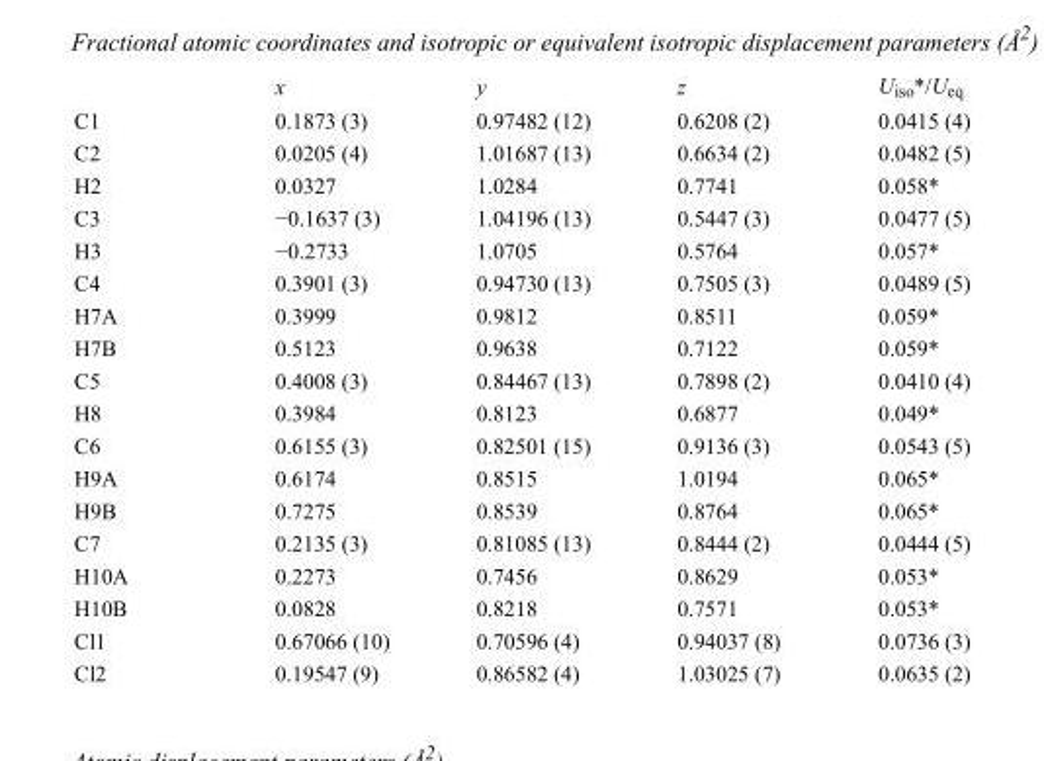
<table><thead><tr><td></td><td>x</td><td>y</td><td>z</td><td>U<sub>iso</sub>*/U<sub>eq</sub></td></tr></thead><tbody><tr><td>C1</td><td>0.1873 (3)</td><td>0.97482 (12)</td><td>0.6208 (2)</td><td>0.0415 (4)</td></tr><tr><td>C2</td><td>0.0205 (4)</td><td>1.01687 (13)</td><td>0.6634 (2)</td><td>0.0482 (5)</td></tr><tr><td>H2</td><td>0.0327</td><td>1.0284</td><td>0.7741</td><td>0.058*</td></tr><tr><td>C3</td><td>−0.1637 (3)</td><td>1.04196 (13)</td><td>0.5447 (3)</td><td>0.0477 (5)</td></tr><tr><td>H3</td><td>−0.2733</td><td>1.0705</td><td>0.5764</td><td>0.057*</td></tr><tr><td>C4</td><td>0.3901 (3)</td><td>0.94730 (13)</td><td>0.7505 (3)</td><td>0.0489 (5)</td></tr><tr><td>H7A</td><td>0.3999</td><td>0.9812</td><td>0.8511</td><td>0.059*</td></tr><tr><td>H7B</td><td>0.5123</td><td>0.9638</td><td>0.7122</td><td>0.059*</td></tr><tr><td>C5</td><td>0.4008 (3)</td><td>0.84467 (13)</td><td>0.7898 (2)</td><td>0.0410 (4)</td></tr><tr><td>H8</td><td>0.3984</td><td>0.8123</td><td>0.6877</td><td>0.049*</td></tr><tr><td>C6</td><td>0.6155 (3)</td><td>0.82501 (15)</td><td>0.9136 (3)</td><td>0.0543 (5)</td></tr><tr><td>H9A</td><td>0.6174</td><td>0.8515</td><td>1.0194</td><td>0.065*</td></tr><tr><td>H9B</td><td>0.7275</td><td>0.8539</td><td>0.8764</td><td>0.065*</td></tr><tr><td>C7</td><td>0.2135 (3)</td><td>0.81085 (13)</td><td>0.8444 (2)</td><td>0.0444 (5)</td></tr><tr><td>H10A</td><td>0.2273</td><td>0.7456</td><td>0.8629</td><td>0.053*</td></tr><tr><td>H10B</td><td>0.0828</td><td>0.8218</td><td>0.7571</td><td>0.053*</td></tr><tr><td>Cl1</td><td>0.67066 (10)</td><td>0.70596 (4)</td><td>0.94037 (8)</td><td>0.0736 (3)</td></tr><tr><td>Cl2</td><td>0.19547 (9)</td><td>0.86582 (4)</td><td>1.03025 (7)</td><td>0.0635 (2)</td></tr></tbody></table>